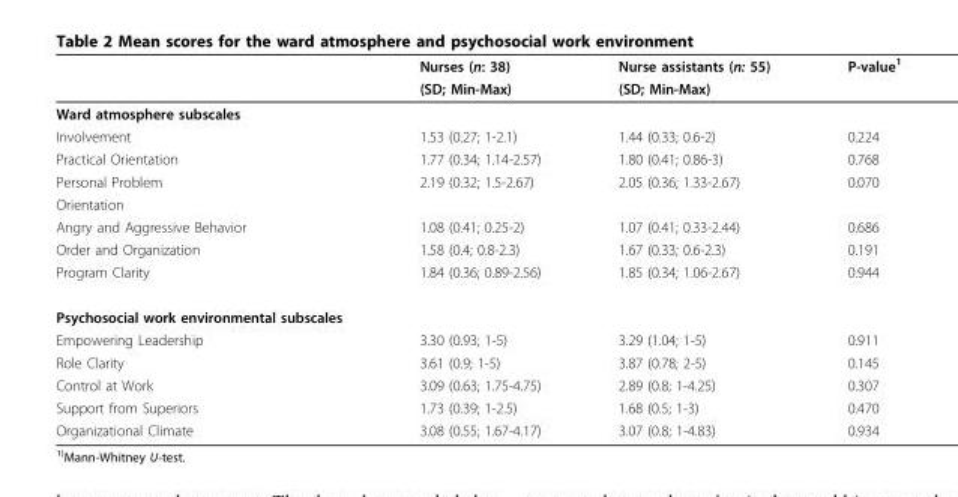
<table><thead><tr><td rowspan="2"></td><td rowspan="2">Nurses (n: 38) (SD; Min-Max)</td><td rowspan="2">Nurse assistants (n: 55) (SD; Min-Max)</td><td rowspan="2">P-value<sup>1</sup></td></tr><tr></tr></thead><tbody><tr><td colspan="4">Ward atmosphere subscales</td></tr><tr><td>Involvement</td><td>1.53 (0.27; 1-2.1)</td><td>1.44 (0.33; 0.6-2)</td><td>0.224</td></tr><tr><td>Practical Orientation</td><td>1.77 (0.34; 1.14-2.57)</td><td>1.80 (0.41; 0.86-3)</td><td>0.768</td></tr><tr><td>Personal Problem</td><td>2.19 (0.32; 1.5-2.67)</td><td>2.05 (0.36; 1.33-2.67)</td><td>0.070</td></tr><tr><td colspan="4">Orientation</td></tr><tr><td>Angry and Aggressive Behavior</td><td>1.08 (0.41; 0.25-2)</td><td>1.07 (0.41; 0.33-2.44)</td><td>0.686</td></tr><tr><td>Order and Organization</td><td>1.58 (0.4; 0.8-2.3)</td><td>1.67 (0.33; 0.6-2.3)</td><td>0.191</td></tr><tr><td>Program Clarity</td><td>1.84 (0.36; 0.89-2.56)</td><td>1.85 (0.34; 1.06-2.67)</td><td>0.944</td></tr><tr><td colspan="4">Psychosocial work environmental subscales</td></tr><tr><td>Empowering Leadership</td><td>3.30 (0.93; 1-5)</td><td>3.29 (1.04; 1-5)</td><td>0.911</td></tr><tr><td>Role Clarity</td><td>3.61 (0.9; 1-5)</td><td>3.87 (0.78; 2-5)</td><td>0.145</td></tr><tr><td>Control at Work</td><td>3.09 (0.63; 1.75-4.75)</td><td>2.89 (0.8; 1-4.25)</td><td>0.307</td></tr><tr><td>Support from Superiors</td><td>1.73 (0.39; 1-2.5)</td><td>1.68 (0.5; 1-3)</td><td>0.470</td></tr><tr><td>Organizational Climate</td><td>3.08 (0.55; 1.67-4.17)</td><td>3.07 (0.8; 1-4.83)</td><td>0.934</td></tr></tbody></table>